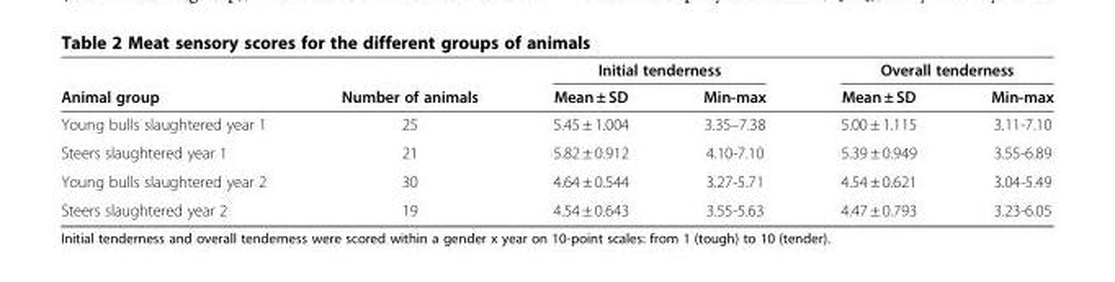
<table><thead><tr><td rowspan="2">Animal group</td><td rowspan="2">Number of animals</td><td colspan="2">Initial tenderness</td><td colspan="2">Overall tenderness</td></tr><tr><td>Mean ± SD</td><td>Min-max</td><td>Mean ± SD</td><td>Min-max</td></tr></thead><tbody><tr><td>Young bulls slaughtered year 1</td><td>25</td><td>5.45 ± 1.004</td><td>3.35–7.38</td><td>5.00 ± 1.115</td><td>3.11-7.10</td></tr><tr><td>Steers slaughtered year 1</td><td>21</td><td>5.82 ± 0.912</td><td>4.10-7.10</td><td>5.39 ± 0.949</td><td>3.55-6.89</td></tr><tr><td>Young bulls slaughtered year 2</td><td>30</td><td>4.64 ± 0.544</td><td>3.27-5.71</td><td>4.54 ± 0.621</td><td>3.04-5.49</td></tr><tr><td>Steers slaughtered year 2</td><td>19</td><td>4.54 ± 0.643</td><td>3.55-5.63</td><td>4.47 ± 0.793</td><td>3.23-6.05</td></tr></tbody></table>